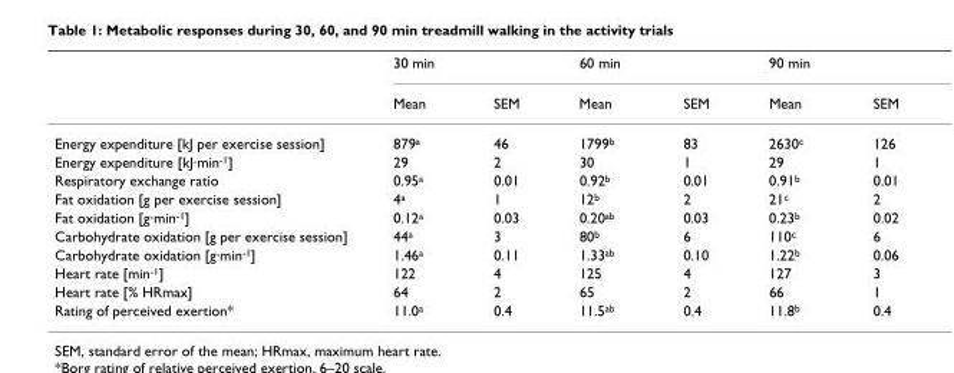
<table><thead><tr><td rowspan="2"></td><td colspan="2">30 min</td><td colspan="2">60 min</td><td colspan="2">90 min</td></tr><tr><td>Mean</td><td>SEM</td><td>Mean</td><td>SEM</td><td>Mean</td><td>SEM</td></tr></thead><tbody><tr><td>Energy expenditure [kJ per exercise session]</td><td>879<sup>a</sup></td><td>46</td><td>1799<sup>b</sup></td><td>83</td><td>2630<sup>c</sup></td><td>126</td></tr><tr><td>Energy expenditure [kJ·min<sup>-1</sup>]</td><td>29</td><td>2</td><td>30</td><td>1</td><td>29</td><td>1</td></tr><tr><td>Respiratory exchange ratio</td><td>0.95<sup>a</sup></td><td>0.01</td><td>0.92<sup>b</sup></td><td>0.01</td><td>0.91<sup>b</sup></td><td>0.01</td></tr><tr><td>Fat oxidation [g per exercise session]</td><td>4<sup>a</sup></td><td>1</td><td>12<sup>b</sup></td><td>2</td><td>21<sup>c</sup></td><td>2</td></tr><tr><td>Fat oxidation [g·min<sup>-1</sup>]</td><td>0.12<sup>a</sup></td><td>0.03</td><td>0.20<sup>ab</sup></td><td>0.03</td><td>0.23<sup>b</sup></td><td>0.02</td></tr><tr><td>Carbohydrate oxidation [g per exercise session]</td><td>44<sup>a</sup></td><td>3</td><td>80<sup>b</sup></td><td>6</td><td>110<sup>c</sup></td><td>6</td></tr><tr><td>Carbohydrate oxidation [g·min<sup>-1</sup>]</td><td>1.46<sup>a</sup></td><td>0.11</td><td>1.33<sup>ab</sup></td><td>0.10</td><td>1.22<sup>b</sup></td><td>0.06</td></tr><tr><td>Heart rate [min<sup>-1</sup>]</td><td>122</td><td>4</td><td>125</td><td>4</td><td>127</td><td>3</td></tr><tr><td>Heart rate [% HRmax]</td><td>64</td><td>2</td><td>65</td><td>2</td><td>66</td><td>1</td></tr><tr><td>Rating of perceived exertion*</td><td>11.0<sup>a</sup></td><td>0.4</td><td>11.5<sup>ab</sup></td><td>0.4</td><td>11.8<sup>b</sup></td><td>0.4</td></tr></tbody></table>